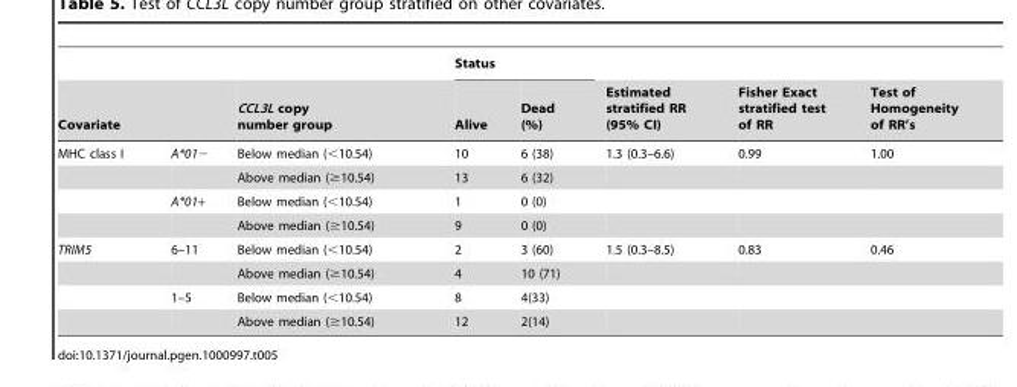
<table><thead><tr><td></td><td></td><td rowspan="2">CCL3L copy number group</td><td colspan="2">Status</td><td rowspan="2">Estimated stratified RR (95% CI)</td><td rowspan="2">Fisher Exact stratified test of RR</td><td rowspan="2">Test of Homogeneity of RR’s</td></tr><tr><td colspan="2">Covariate</td><td>Alive</td><td>Dead (%)</td></tr></thead><tbody><tr><td rowspan="4">MHC class I</td><td>A*01−</td><td>Below median (&lt;10.54)</td><td>10</td><td>6 (38)</td><td>1.3 (0.3–6.6)</td><td>0.99</td><td>1.00</td></tr><tr><td></td><td>Above median (≥10.54)</td><td>13</td><td>6 (32)</td><td></td><td></td><td></td></tr><tr><td>A*01+</td><td>Below median (&lt;10.54)</td><td>1</td><td>0 (0)</td><td></td><td></td><td></td></tr><tr><td></td><td>Above median (≥10.54)</td><td>9</td><td>0 (0)</td><td></td><td></td><td></td></tr><tr><td rowspan="4">TRIM5</td><td>6–11</td><td>Below median (&lt;10.54)</td><td>2</td><td>3 (60)</td><td>1.5 (0.3–8.5)</td><td>0.83</td><td>0.46</td></tr><tr><td></td><td>Above median (≥10.54)</td><td>4</td><td>10 (71)</td><td></td><td></td><td></td></tr><tr><td>1–5</td><td>Below median (&lt;10.54)</td><td>8</td><td>4(33)</td><td></td><td></td><td></td></tr><tr><td></td><td>Above median (≥10.54)</td><td>12</td><td>2(14)</td><td></td><td></td><td></td></tr></tbody></table>